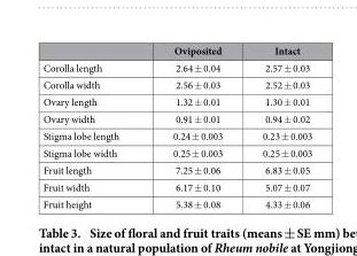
<table><thead><tr><td></td><td>Oviposited</td><td>Intact</td></tr></thead><tbody><tr><td>Corolla length</td><td>2.64 ± 0.04</td><td>2.57 ± 0.03</td></tr><tr><td>Corolla width</td><td>2.56 ± 0.03</td><td>2.52 ± 0.03</td></tr><tr><td>Ovary length</td><td>1.32 ± 0.01</td><td>1.30 ± 0.01</td></tr><tr><td>Ovary width</td><td>0.91 ± 0.01</td><td>0.94 ± 0.02</td></tr><tr><td>Stigma lobe length</td><td>0.24 ± 0.003</td><td>0.23 ± 0.003</td></tr><tr><td>Stigma lobe width</td><td>0.25 ± 0.003</td><td>0.25 ± 0.003</td></tr><tr><td>Fruit length</td><td>7.25 ± 0.06</td><td>6.83 ± 0.05</td></tr><tr><td>Fruit width</td><td>6.17 ± 0.10</td><td>5.07 ± 0.07</td></tr><tr><td>Fruit height</td><td>5.38 ± 0.08</td><td>4.33 ± 0.06</td></tr></tbody></table>